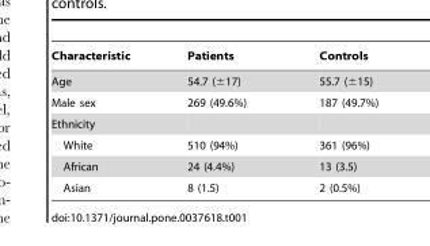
<table><thead><tr><td>Characteristic</td><td>Patients</td><td>Controls</td></tr></thead><tbody><tr><td>Age</td><td>54.7 (±17)</td><td>55.7 (±15)</td></tr><tr><td>Male sex</td><td>269 (49.6%)</td><td>187 (49.7%)</td></tr><tr><td colspan="3">Ethnicity</td></tr><tr><td>White</td><td>510 (94%)</td><td>361 (96%)</td></tr><tr><td>African</td><td>24 (4.4%)</td><td>13 (3.5)</td></tr><tr><td>Asian</td><td>8 (1.5)</td><td>2 (0.5%)</td></tr></tbody></table>